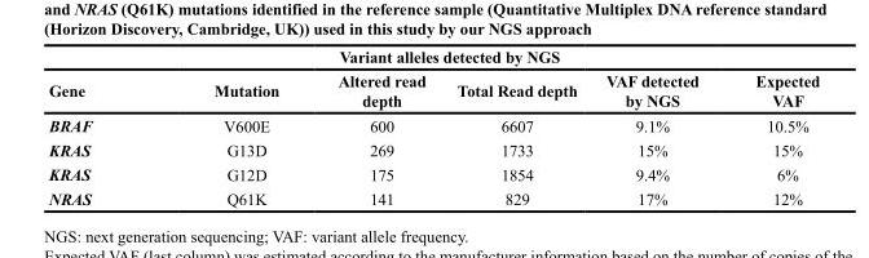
<table><thead><tr><td colspan="6">Variant alleles detected by NGS</td></tr><tr><td>Gene</td><td>Mutation</td><td>Altered read depth</td><td>Total Read depth</td><td>VAF detected by NGS</td><td>Expected VAF</td></tr></thead><tbody><tr><td>BRAF</td><td>V600E</td><td>600</td><td>6607</td><td>9.1%</td><td>10.5%</td></tr><tr><td>KRAS</td><td>G13D</td><td>269</td><td>1733</td><td>15%</td><td>15%</td></tr><tr><td>KRAS</td><td>G12D</td><td>175</td><td>1854</td><td>9.4%</td><td>6%</td></tr><tr><td>NRAS</td><td>Q61K</td><td>141</td><td>829</td><td>17%</td><td>12%</td></tr></tbody></table>